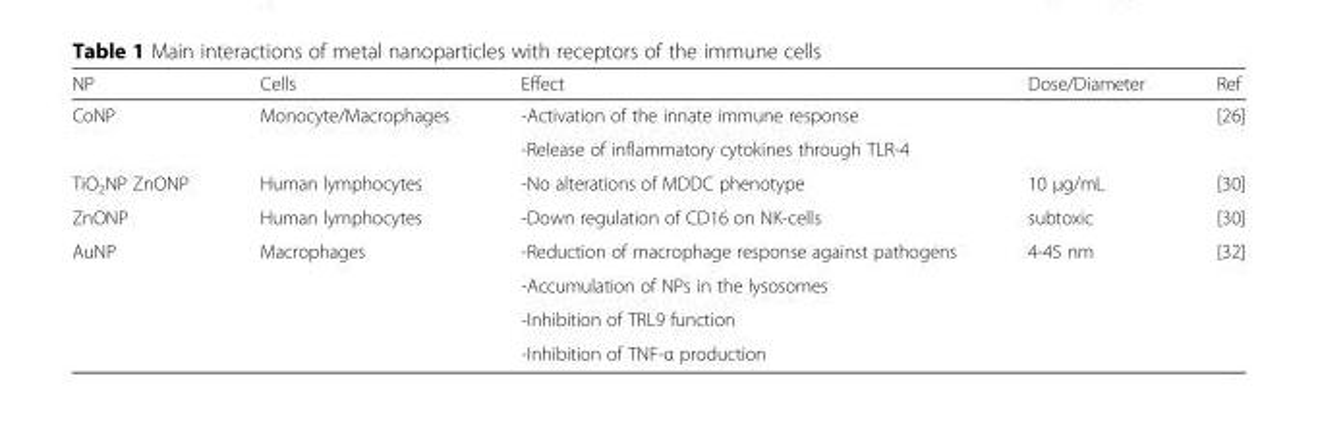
<table><thead><tr><td>NP</td><td>Cells</td><td>Effect</td><td>Dose/Diameter</td><td>Ref</td></tr></thead><tbody><tr><td rowspan="2">CoNP</td><td rowspan="2">Monocyte/Macrophages</td><td>-Activation of the innate immune response</td><td rowspan="2"></td><td rowspan="2">[26]</td></tr><tr><td>-Release of inflammatory cytokines through TLR-4</td></tr><tr><td>TiO<sub>2</sub>NP ZnONP</td><td>Human lymphocytes</td><td>-No alterations of MDDC phenotype</td><td>10 μg/mL</td><td>[30]</td></tr><tr><td>ZnONP</td><td>Human lymphocytes</td><td>-Down regulation of CD16 on NK-cells</td><td>subtoxic</td><td>[30]</td></tr><tr><td rowspan="4">AuNP</td><td rowspan="4">Macrophages</td><td>-Reduction of macrophage response against pathogens</td><td rowspan="4">4-45 nm</td><td rowspan="4">[32]</td></tr><tr><td>-Accumulation of NPs in the lysosomes</td></tr><tr><td>-Inhibition of TRL9 function</td></tr><tr><td>-Inhibition of TNF-α production</td></tr></tbody></table>